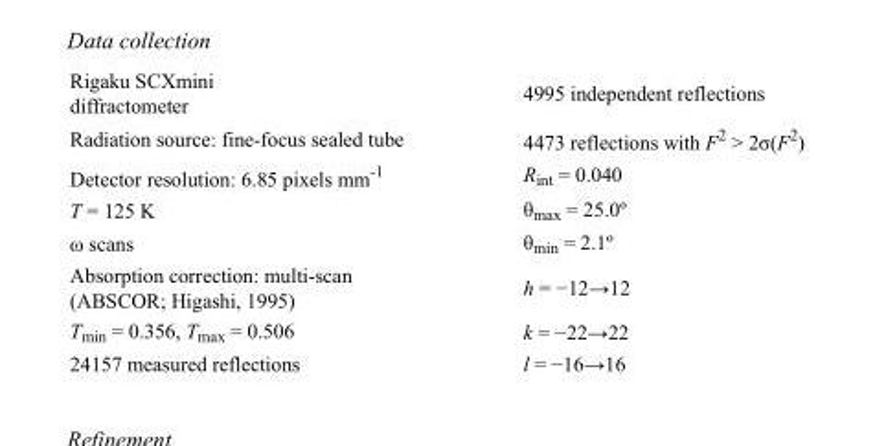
<table><tbody><tr><td>Rigaku SCXmini diffractometer</td><td>4995 independent reflections</td></tr><tr><td>Radiation source: fine-focus sealed tube</td><td>4473 reflections with F<sup>2</sup> &gt; 2σ(F<sup>2</sup>)</td></tr><tr><td>Detector resolution: 6.85 pixels mm<sup>-1</sup></td><td>R<sub>int</sub> = 0.040</td></tr><tr><td>T = 125 K ω scans</td><td>θmax = 25.0º θmin = 2.1º</td></tr><tr><td>Absorption correction: multi-scan (ABSCOR; Higashi, 1995)</td><td>h = −12→12</td></tr><tr><td>T<sub>min</sub> = 0.356, T<sub>max</sub> = 0.506</td><td>k = −22→22</td></tr><tr><td>24157 measured reflections</td><td>l = −16→16</td></tr></tbody></table>